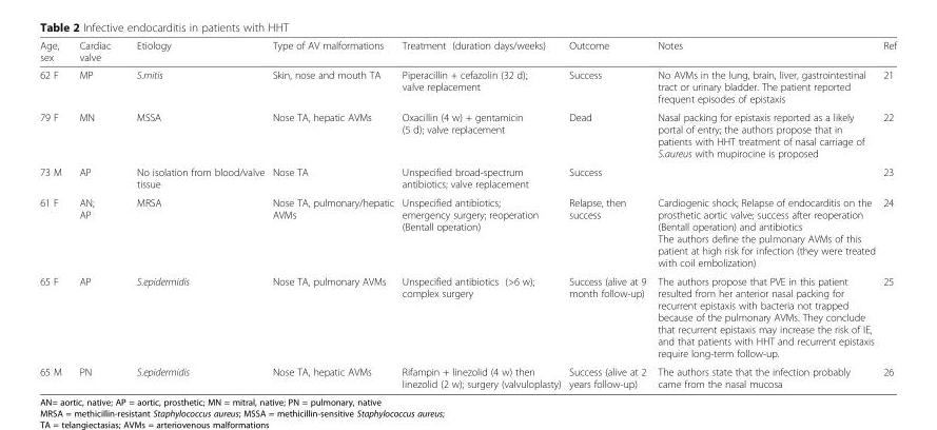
<table><thead><tr><td>Age, sex</td><td>Cardiac valve</td><td>Etiology</td><td>Type of AV malformations</td><td>Treatment (duration days/weeks)</td><td>Outcome</td><td>Notes</td><td>Ref</td></tr></thead><tbody><tr><td>62 F</td><td>MP</td><td>S.mitis</td><td>Skin, nose and mouth TA</td><td>Piperacillin + cefazolin (32 d); valve replacement</td><td>Success</td><td>No AVMs in the lung, brain, liver, gastrointestinal tract or urinary bladder. The patient reported frequent episodes of epistaxis</td><td>21</td></tr><tr><td>79 F</td><td>MN</td><td>MSSA</td><td>Nose TA, hepatic AVMs</td><td>Oxacillin (4 w) + gentamicin (5 d); valve replacement</td><td>Dead</td><td>Nasal packing for epistaxis reported as a likely portal of entry; the authors propose that in patients with HHT treatment of nasal carriage of S.aureus with mupirocine is proposed</td><td>22</td></tr><tr><td>73 M</td><td>AP</td><td>No isolation from blood/valve tissue</td><td>Nose TA</td><td>Unspecified broad-spectrum antibiotics; valve replacement</td><td>Success</td><td></td><td>23</td></tr><tr><td>61 F</td><td>AN; AP</td><td>MRSA</td><td>Nose TA, pulmonary/hepatic AVMs</td><td>Unspecified antibiotics; emergency surgery; reoperation (Bentall operation)</td><td>Relapse, then success</td><td>Cardiogenic shock; Relapse of endocarditis on the prosthetic aortic valve; success after reoperation (Bentall operation) and antibiotics The authors define the pulmonary AVMs of this patient at high risk for infection (they were treated with coil embolization)</td><td>24</td></tr><tr><td>65 F</td><td>AP</td><td>S.epidermidis</td><td>Nose TA, pulmonary AVMs</td><td>Unspecified antibiotics (&gt;6 w); complex surgery</td><td>Success (alive at 9 month follow-up)</td><td>The authors propose that PVE in this patient resulted from her anterior nasal packing for recurrent epistaxis with bacteria not trapped because of the pulmonary AVMs. They conclude that recurrent epistaxis may increase the risk of IE, and that patients with HHT and recurrent epistaxis require long-term follow-up.</td><td>25</td></tr><tr><td>65 M</td><td>PN</td><td>S.epidermidis</td><td>Nose TA, hepatic AVMs</td><td>Rifampin + linezolid (4 w) then linezolid (2 w); surgery (valvuloplasty)</td><td>Success (alive at 2 years follow-up)</td><td>The authors state that the infection probably came from the nasal mucosa</td><td>26</td></tr></tbody></table>